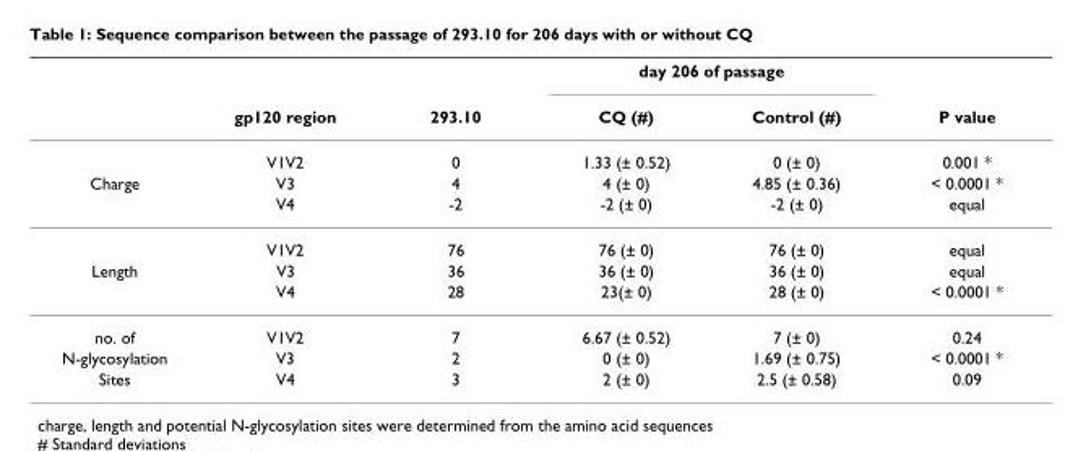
<table><thead><tr><td rowspan="2"></td><td rowspan="2">gp120 region</td><td rowspan="2">293.10</td><td colspan="2">day 206 of passage</td><td rowspan="2">P value</td></tr><tr><td>CQ (#)</td><td>Control (#)</td></tr></thead><tbody><tr><td></td><td>V1V2</td><td>0</td><td>1.33 (± 0.52)</td><td>0 (± 0)</td><td>0.001 *</td></tr><tr><td rowspan="3">Charge</td><td>V3</td><td>4</td><td>4 (± 0)</td><td>4.85 (± 0.36)</td><td>&lt; 0.0001 *</td></tr><tr><td>V4</td><td>-2</td><td>-2 (± 0)</td><td>-2 (± 0)</td><td>equal</td></tr><tr><td>V1V2</td><td>76</td><td>76 (± 0)</td><td>76 (± 0)</td><td>equal</td></tr><tr><td rowspan="2">Length</td><td>V3</td><td>36</td><td>36 (± 0)</td><td>36 (± 0)</td><td>equal</td></tr><tr><td>V4</td><td>28</td><td>23(± 0)</td><td>28 (± 0)</td><td>&lt; 0.0001 *</td></tr><tr><td>no. of</td><td>V1V2</td><td>7</td><td>6.67 (± 0.52)</td><td>7 (± 0)</td><td>0.24</td></tr><tr><td>N-glycosylation</td><td>V3</td><td>2</td><td>0 (± 0)</td><td>1.69 (± 0.75)</td><td>&lt; 0.0001 *</td></tr><tr><td>Sites</td><td>V4</td><td>3</td><td>2 (± 0)</td><td>2.5 (± 0.58)</td><td>0.09</td></tr></tbody></table>